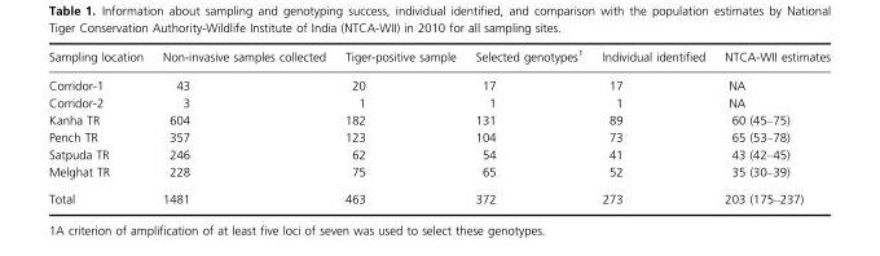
<table><thead><tr><td>Sampling location</td><td>Non-invasive samples collected</td><td>Tiger-positive sample</td><td>Selected genotypes<sup>1</sup></td><td>Individual identified</td><td>NTCA-WII estimates</td></tr></thead><tbody><tr><td>Corridor-1</td><td>43</td><td>20</td><td>17</td><td>17</td><td>NA</td></tr><tr><td>Corridor-2</td><td>3</td><td>1</td><td>1</td><td>1</td><td>NA</td></tr><tr><td>Kanha TR</td><td>604</td><td>182</td><td>131</td><td>89</td><td>60 (45–75)</td></tr><tr><td>Pench TR</td><td>357</td><td>123</td><td>104</td><td>73</td><td>65 (53–78)</td></tr><tr><td>Satpuda TR</td><td>246</td><td>62</td><td>54</td><td>41</td><td>43 (42–45)</td></tr><tr><td>Melghat TR</td><td>228</td><td>75</td><td>65</td><td>52</td><td>35 (30–39)</td></tr><tr><td>Total</td><td>1481</td><td>463</td><td>372</td><td>273</td><td>203 (175–237)</td></tr></tbody></table>